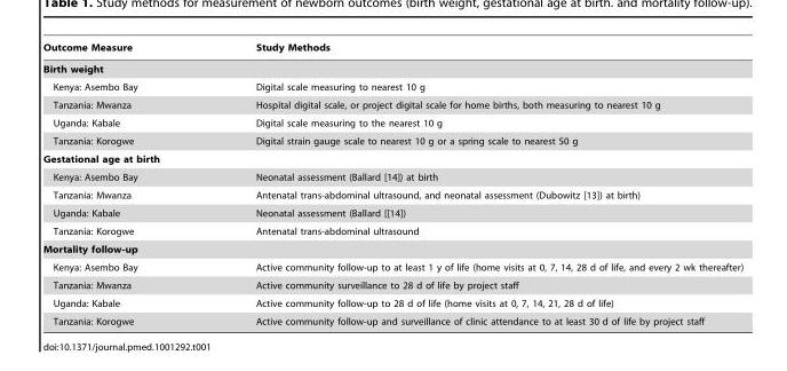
<table><thead><tr><td>Outcome Measure</td><td>Study Methods</td></tr></thead><tbody><tr><td colspan="2">Birth weight</td></tr><tr><td>Kenya: Asembo Bay</td><td>Digital scale measuring to nearest 10 g</td></tr><tr><td>Tanzania: Mwanza</td><td>Hospital digital scale, or project digital scale for home births, both measuring to nearest 10 g</td></tr><tr><td>Uganda: Kabale</td><td>Digital scale measuring to the nearest 10 g</td></tr><tr><td>Tanzania: Korogwe</td><td>Digital strain gauge scale to nearest 10 g or a spring scale to nearest 50 g</td></tr><tr><td colspan="2">Gestational age at birth</td></tr><tr><td>Kenya: Asembo Bay</td><td>Neonatal assessment (Ballard [14]) at birth</td></tr><tr><td>Tanzania: Mwanza</td><td>Antenatal trans-abdominal ultrasound, and neonatal assessment (Dubowitz [13]) at birth)</td></tr><tr><td>Uganda: Kabale</td><td>Neonatal assessment (Ballard [[14])</td></tr><tr><td>Tanzania: Korogwe</td><td>Antenatal trans-abdominal ultrasound</td></tr><tr><td colspan="2">Mortality follow-up</td></tr><tr><td>Kenya: Asembo Bay</td><td>Active community follow-up to at least 1 y of life (home visits at 0, 7, 14, 28 d of life, and every 2 wk thereafter)</td></tr><tr><td>Tanzania: Mwanza</td><td>Active community surveillance to 28 d of life by project staff</td></tr><tr><td>Uganda: Kabale</td><td>Active community follow-up to 28 d of life (home visits at 0, 7, 14, 21, 28 d of life)</td></tr><tr><td>Tanzania: Korogwe</td><td>Active community follow-up and surveillance of clinic attendance to at least 30 d of life by project staff</td></tr></tbody></table>